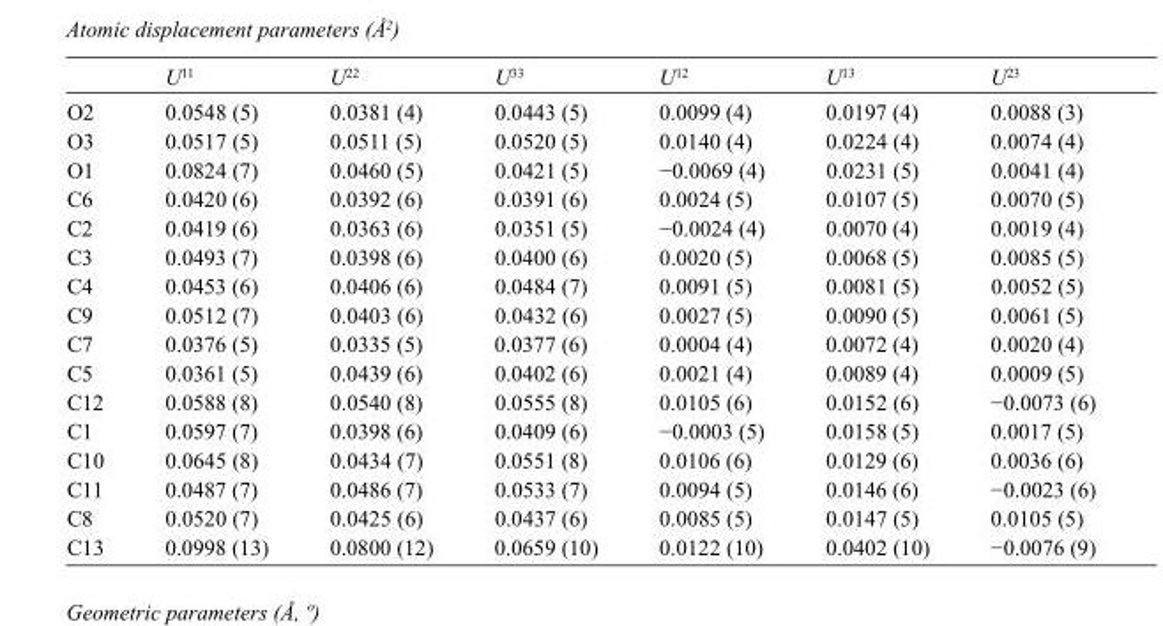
<table><thead><tr><td></td><td>U<sup>11</sup></td><td>U<sup>22</sup></td><td>U<sup>33</sup></td><td>U<sup>12</sup></td><td>U<sup>13</sup></td><td>U<sup>23</sup></td></tr></thead><tbody><tr><td>O2</td><td>0.0548 (5)</td><td>0.0381 (4)</td><td>0.0443 (5)</td><td>0.0099 (4)</td><td>0.0197 (4)</td><td>0.0088 (3)</td></tr><tr><td>O3</td><td>0.0517 (5)</td><td>0.0511 (5)</td><td>0.0520 (5)</td><td>0.0140 (4)</td><td>0.0224 (4)</td><td>0.0074 (4)</td></tr><tr><td>O1</td><td>0.0824 (7)</td><td>0.0460 (5)</td><td>0.0421 (5)</td><td>−0.0069 (4)</td><td>0.0231 (5)</td><td>0.0041 (4)</td></tr><tr><td>C6</td><td>0.0420 (6)</td><td>0.0392 (6)</td><td>0.0391 (6)</td><td>0.0024 (5)</td><td>0.0107 (5)</td><td>0.0070 (5)</td></tr><tr><td>C2</td><td>0.0419 (6)</td><td>0.0363 (6)</td><td>0.0351 (5)</td><td>−0.0024 (4)</td><td>0.0070 (4)</td><td>0.0019 (4)</td></tr><tr><td>C3</td><td>0.0493 (7)</td><td>0.0398 (6)</td><td>0.0400 (6)</td><td>0.0020 (5)</td><td>0.0068 (5)</td><td>0.0085 (5)</td></tr><tr><td>C4</td><td>0.0453 (6)</td><td>0.0406 (6)</td><td>0.0484 (7)</td><td>0.0091 (5)</td><td>0.0081 (5)</td><td>0.0052 (5)</td></tr><tr><td>C9</td><td>0.0512 (7)</td><td>0.0403 (6)</td><td>0.0432 (6)</td><td>0.0027 (5)</td><td>0.0090 (5)</td><td>0.0061 (5)</td></tr><tr><td>C7</td><td>0.0376 (5)</td><td>0.0335 (5)</td><td>0.0377 (6)</td><td>0.0004 (4)</td><td>0.0072 (4)</td><td>0.0020 (4)</td></tr><tr><td>C5</td><td>0.0361 (5)</td><td>0.0439 (6)</td><td>0.0402 (6)</td><td>0.0021 (4)</td><td>0.0089 (4)</td><td>0.0009 (5)</td></tr><tr><td>C12</td><td>0.0588 (8)</td><td>0.0540 (8)</td><td>0.0555 (8)</td><td>0.0105 (6)</td><td>0.0152 (6)</td><td>−0.0073 (6)</td></tr><tr><td>C1</td><td>0.0597 (7)</td><td>0.0398 (6)</td><td>0.0409 (6)</td><td>−0.0003 (5)</td><td>0.0158 (5)</td><td>0.0017 (5)</td></tr><tr><td>C10</td><td>0.0645 (8)</td><td>0.0434 (7)</td><td>0.0551 (8)</td><td>0.0106 (6)</td><td>0.0129 (6)</td><td>0.0036 (6)</td></tr><tr><td>C11</td><td>0.0487 (7)</td><td>0.0486 (7)</td><td>0.0533 (7)</td><td>0.0094 (5)</td><td>0.0146 (6)</td><td>−0.0023 (6)</td></tr><tr><td>C8</td><td>0.0520 (7)</td><td>0.0425 (6)</td><td>0.0437 (6)</td><td>0.0085 (5)</td><td>0.0147 (5)</td><td>0.0105 (5)</td></tr><tr><td>C13</td><td>0.0998 (13)</td><td>0.0800 (12)</td><td>0.0659 (10)</td><td>0.0122 (10)</td><td>0.0402 (10)</td><td>−0.0076 (9)</td></tr></tbody></table>